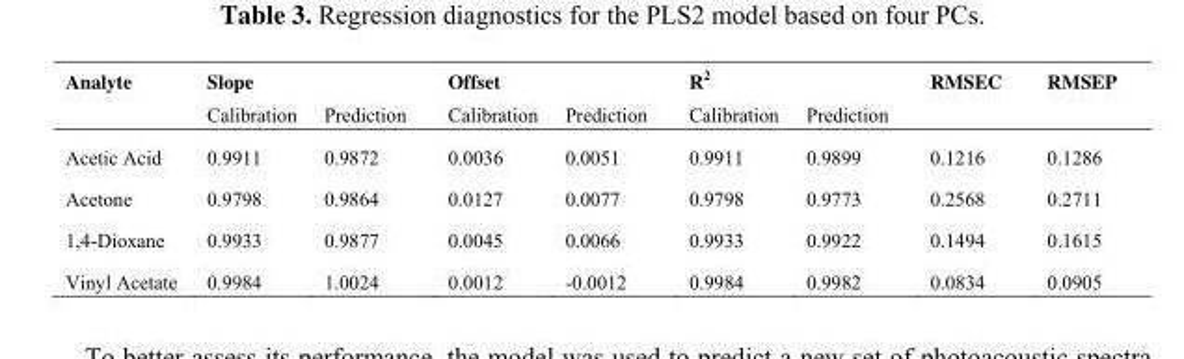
<table><thead><tr><td rowspan="2">Analyte</td><td colspan="2">Slope</td><td colspan="2">Offset</td><td colspan="2">R<sup>2</sup></td><td rowspan="2">RMSEC</td><td rowspan="2">RMSEP</td></tr><tr><td>Calibration</td><td>Prediction</td><td>Calibration</td><td>Prediction</td><td>Calibration</td><td>Prediction</td></tr></thead><tbody><tr><td>Acetic Acid</td><td>0.9911</td><td>0.9872</td><td>0.0036</td><td>0.0051</td><td>0.9911</td><td>0.9899</td><td>0.1216</td><td>0.1286</td></tr><tr><td>Acetone</td><td>0.9798</td><td>0.9864</td><td>0.0127</td><td>0.0077</td><td>0.9798</td><td>0.9773</td><td>0.2568</td><td>0.2711</td></tr><tr><td>1,4-Dioxane</td><td>0.9933</td><td>0.9877</td><td>0.0045</td><td>0.0066</td><td>0.9933</td><td>0.9922</td><td>0.1494</td><td>0.1615</td></tr><tr><td>Vinyl Acetate</td><td>0.9984</td><td>1.0024</td><td>0.0012</td><td>-0.0012</td><td>0.9984</td><td>0.9982</td><td>0.0834</td><td>0.0905</td></tr></tbody></table>